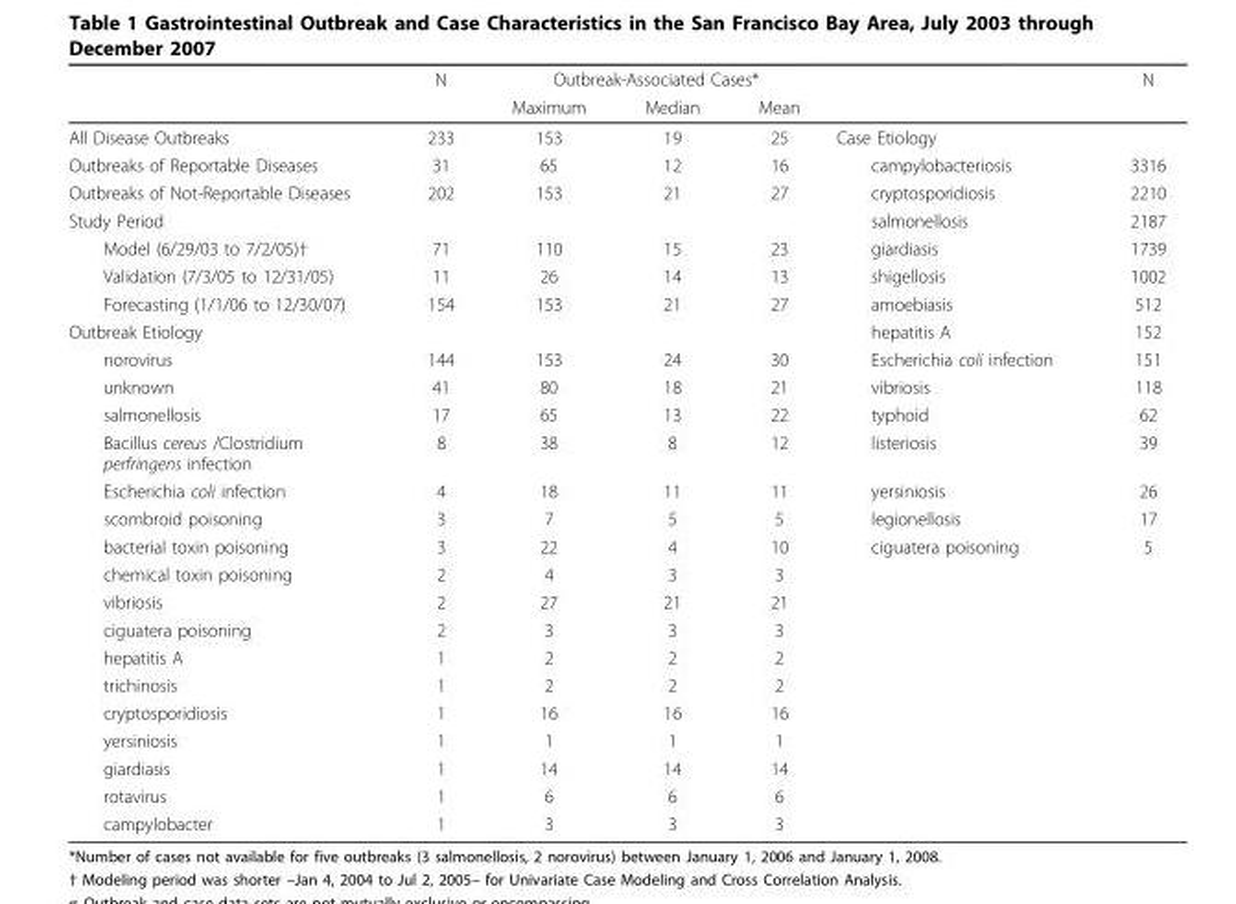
<table><thead><tr><td rowspan="2"></td><td rowspan="2">N</td><td colspan="3">Outbreak-Associated Cases*</td><td rowspan="2"></td><td rowspan="2">N</td></tr><tr><td>Maximum</td><td>Median</td><td>Mean</td></tr></thead><tbody><tr><td>All Disease Outbreaks</td><td>233</td><td>153</td><td>19</td><td>25</td><td>Case Etiology</td><td></td></tr><tr><td>Outbreaks of Reportable Diseases</td><td>31</td><td>65</td><td>12</td><td>16</td><td>campylobacteriosis</td><td>3316</td></tr><tr><td>Outbreaks of Not-Reportable Diseases</td><td>202</td><td>153</td><td>21</td><td>27</td><td>cryptosporidiosis</td><td>2210</td></tr><tr><td>Study Period</td><td></td><td></td><td></td><td></td><td>salmonellosis</td><td>2187</td></tr><tr><td>Model (6/29/03 to 7/2/05)†</td><td>71</td><td>110</td><td>15</td><td>23</td><td>giardiasis</td><td>1739</td></tr><tr><td>Validation (7/3/05 to 12/31/05)</td><td>11</td><td>26</td><td>14</td><td>13</td><td>shigellosis</td><td>1002</td></tr><tr><td>Forecasting (1/1/06 to 12/30/07)</td><td>154</td><td>153</td><td>21</td><td>27</td><td>amoebiasis</td><td>512</td></tr><tr><td>Outbreak Etiology</td><td></td><td></td><td></td><td></td><td>hepatitis A</td><td>152</td></tr><tr><td>norovirus</td><td>144</td><td>153</td><td>24</td><td>30</td><td>Escherichia coli infection</td><td>151</td></tr><tr><td>unknown</td><td>41</td><td>80</td><td>18</td><td>21</td><td>vibriosis</td><td>118</td></tr><tr><td>salmonellosis</td><td>17</td><td>65</td><td>13</td><td>22</td><td>typhoid</td><td>62</td></tr><tr><td>Bacillus cereus /Clostridium perfringens infection</td><td>8</td><td>38</td><td>8</td><td>12</td><td>listeriosis</td><td>39</td></tr><tr><td>Escherichia coli infection</td><td>4</td><td>18</td><td>11</td><td>11</td><td>yersiniosis</td><td>26</td></tr><tr><td>scombroid poisoning</td><td>3</td><td>7</td><td>5</td><td>5</td><td>legionellosis</td><td>17</td></tr><tr><td>bacterial toxin poisoning</td><td>3</td><td>22</td><td>4</td><td>10</td><td>ciguatera poisoning</td><td>5</td></tr><tr><td>chemical toxin poisoning</td><td>2</td><td>4</td><td>3</td><td>3</td><td></td><td></td></tr><tr><td>vibriosis</td><td>2</td><td>27</td><td>21</td><td>21</td><td></td><td></td></tr><tr><td>ciguatera poisoning</td><td>2</td><td>3</td><td>3</td><td>3</td><td></td><td></td></tr><tr><td>hepatitis A</td><td>1</td><td>2</td><td>2</td><td>2</td><td></td><td></td></tr><tr><td>trichinosis</td><td>1</td><td>2</td><td>2</td><td>2</td><td></td><td></td></tr><tr><td>cryptosporidiosis</td><td>1</td><td>16</td><td>16</td><td>16</td><td></td><td></td></tr><tr><td>yersiniosis</td><td>1</td><td>1</td><td>1</td><td>1</td><td></td><td></td></tr><tr><td>giardiasis</td><td>1</td><td>14</td><td>14</td><td>14</td><td></td><td></td></tr><tr><td>rotavirus</td><td>1</td><td>6</td><td>6</td><td>6</td><td></td><td></td></tr><tr><td>campylobacter</td><td>1</td><td>3</td><td>3</td><td>3</td><td></td><td></td></tr></tbody></table>